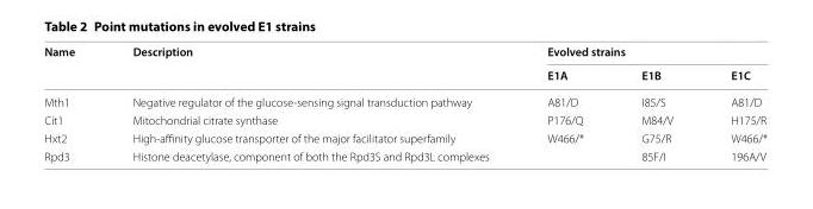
<table><thead><tr><td rowspan="2">Name</td><td rowspan="2">Description</td><td colspan="3">Evolved strains</td></tr><tr><td>E1A</td><td>E1B</td><td>E1C</td></tr></thead><tbody><tr><td>Mth1</td><td>Negative regulator of the glucose-sensing signal transduction pathway</td><td>A81/D</td><td>I85/S</td><td>A81/D</td></tr><tr><td>Cit1</td><td>Mitochondrial citrate synthase</td><td>P176/Q</td><td>M84/V</td><td>H175/R</td></tr><tr><td>Hxt2</td><td>High-affinity glucose transporter of the major facilitator superfamily</td><td>W466/*</td><td>G75/R</td><td>W466/*</td></tr><tr><td>Rpd3</td><td>Histone deacetylase, component of both the Rpd3S and Rpd3L complexes</td><td></td><td>85F/I</td><td>196A/V</td></tr></tbody></table>